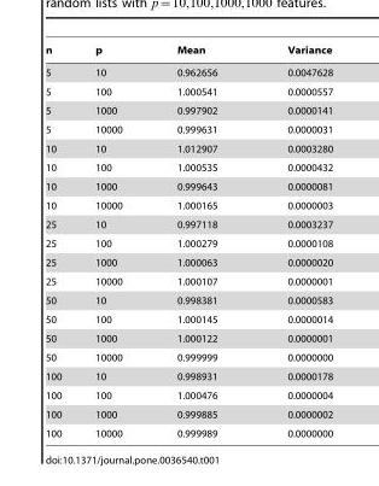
<table><thead><tr><td>n</td><td>p</td><td>Mean</td><td>Variance</td></tr></thead><tbody><tr><td>5</td><td>10</td><td>0.962656</td><td>0.0047628</td></tr><tr><td>5</td><td>100</td><td>1.000541</td><td>0.0000557</td></tr><tr><td>5</td><td>1000</td><td>0.997902</td><td>0.0000141</td></tr><tr><td>5</td><td>10000</td><td>0.999631</td><td>0.0000031</td></tr><tr><td>10</td><td>10</td><td>1.012907</td><td>0.0003280</td></tr><tr><td>10</td><td>100</td><td>1.000535</td><td>0.0000432</td></tr><tr><td>10</td><td>1000</td><td>0.999643</td><td>0.0000081</td></tr><tr><td>10</td><td>10000</td><td>1.000165</td><td>0.0000003</td></tr><tr><td>25</td><td>10</td><td>0.997118</td><td>0.0003237</td></tr><tr><td>25</td><td>100</td><td>1.000279</td><td>0.0000108</td></tr><tr><td>25</td><td>1000</td><td>1.000063</td><td>0.0000020</td></tr><tr><td>25</td><td>10000</td><td>1.000107</td><td>0.0000001</td></tr><tr><td>50</td><td>10</td><td>0.998381</td><td>0.0000583</td></tr><tr><td>50</td><td>100</td><td>1.000145</td><td>0.0000014</td></tr><tr><td>50</td><td>1000</td><td>1.000122</td><td>0.0000001</td></tr><tr><td>50</td><td>10000</td><td>0.999999</td><td>0.0000000</td></tr><tr><td>100</td><td>10</td><td>0.998931</td><td>0.0000178</td></tr><tr><td>100</td><td>100</td><td>1.000476</td><td>0.0000004</td></tr><tr><td>100</td><td>1000</td><td>0.999885</td><td>0.0000002</td></tr><tr><td>100</td><td>10000</td><td>0.999989</td><td>0.0000000</td></tr></tbody></table>